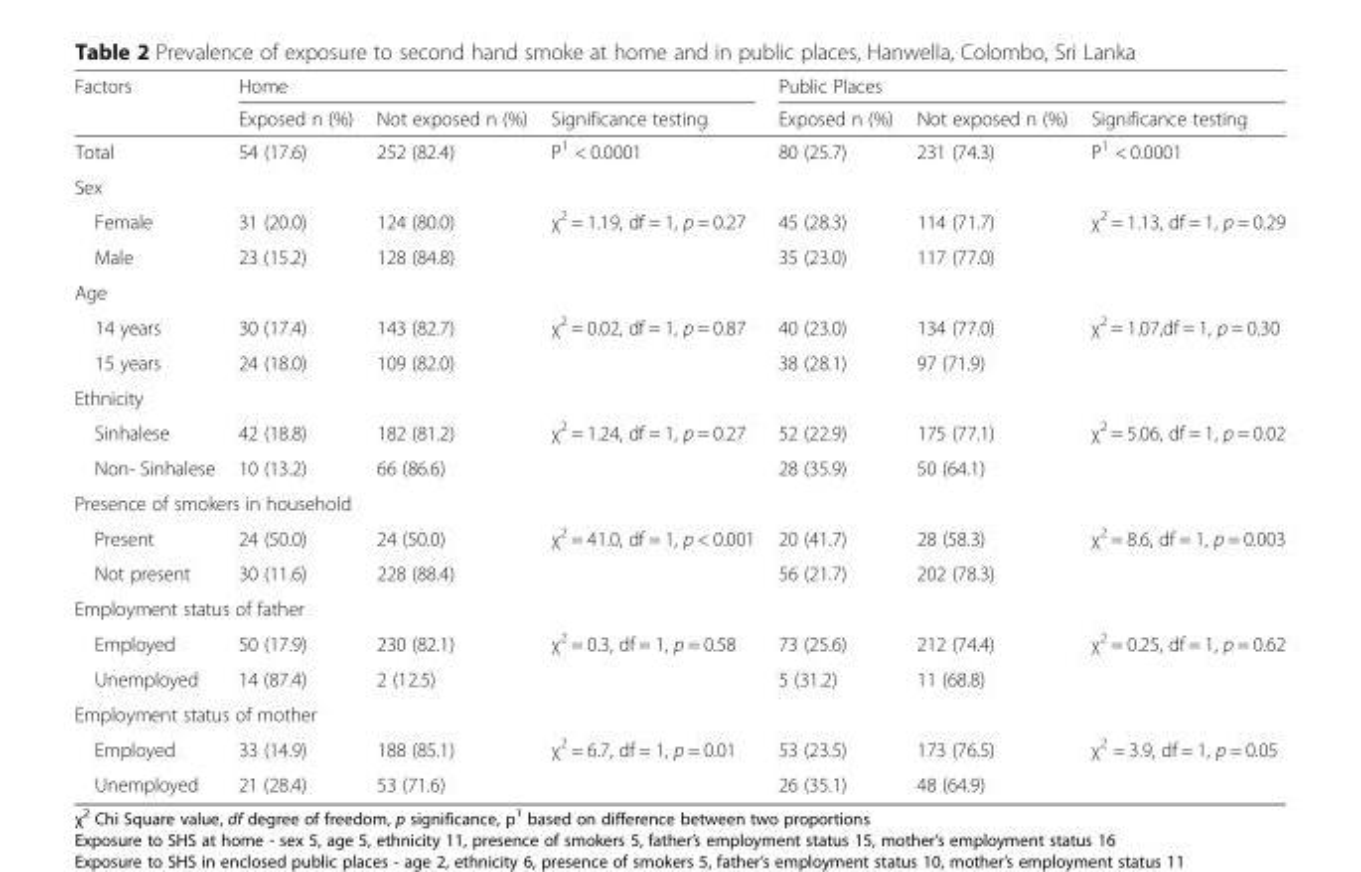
<table><thead><tr><td rowspan="2">Factors</td><td colspan="3">Home</td><td colspan="3">Public Places</td></tr><tr><td>Exposed n (%)</td><td>Not exposed n (%)</td><td>Significance testing</td><td>Exposed n (%)</td><td>Not exposed n (%)</td><td>Significance testing</td></tr></thead><tbody><tr><td>Total</td><td>54 (17.6)</td><td>252 (82.4)</td><td>P<sup>1</sup> &lt; 0.0001</td><td>80 (25.7)</td><td>231 (74.3)</td><td>P<sup>1</sup> &lt; 0.0001</td></tr><tr><td colspan="7">Sex</td></tr><tr><td>Female</td><td>31 (20.0)</td><td>124 (80.0)</td><td rowspan="2">χ<sup>2</sup> = 1.19, df = 1, p = 0.27</td><td>45 (28.3)</td><td>114 (71.7)</td><td rowspan="2">χ<sup>2</sup> = 1.13, df = 1, p = 0.29</td></tr><tr><td>Male</td><td>23 (15.2)</td><td>128 (84.8)</td><td>35 (23.0)</td><td>117 (77.0)</td></tr><tr><td colspan="7">Age</td></tr><tr><td>14 years</td><td>30 (17.4)</td><td>143 (82.7)</td><td rowspan="2">χ<sup>2</sup> = 0.02, df = 1, p = 0.87</td><td>40 (23.0)</td><td>134 (77.0)</td><td rowspan="2">χ<sup>2</sup> = 1.07,df = 1, p = 0.30</td></tr><tr><td>15 years</td><td>24 (18.0)</td><td>109 (82.0)</td><td>38 (28.1)</td><td>97 (71.9)</td></tr><tr><td colspan="7">Ethnicity</td></tr><tr><td>Sinhalese</td><td>42 (18.8)</td><td>182 (81.2)</td><td rowspan="2">χ<sup>2</sup> = 1.24, df = 1, p = 0.27</td><td>52 (22.9)</td><td>175 (77.1)</td><td rowspan="2">χ<sup>2</sup> = 5.06, df = 1, p = 0.02</td></tr><tr><td>Non- Sinhalese</td><td>10 (13.2)</td><td>66 (86.6)</td><td>28 (35.9)</td><td>50 (64.1)</td></tr><tr><td colspan="7">Presence of smokers in household</td></tr><tr><td>Present</td><td>24 (50.0)</td><td>24 (50.0)</td><td rowspan="2">χ<sup>2</sup> = 41.0, df = 1, p &lt; 0.001</td><td>20 (41.7)</td><td>28 (58.3)</td><td rowspan="2">χ<sup>2</sup> = 8.6, df = 1, p = 0.003</td></tr><tr><td>Not present</td><td>30 (11.6)</td><td>228 (88.4)</td><td>56 (21.7)</td><td>202 (78.3)</td></tr><tr><td colspan="7">Employment status of father</td></tr><tr><td>Employed</td><td>50 (17.9)</td><td>230 (82.1)</td><td rowspan="2">χ<sup>2</sup> = 0.3, df = 1, p = 0.58</td><td>73 (25.6)</td><td>212 (74.4)</td><td rowspan="2">χ<sup>2</sup> = 0.25, df = 1, p = 0.62</td></tr><tr><td>Unemployed</td><td>14 (87.4)</td><td>2 (12.5)</td><td>5 (31.2)</td><td>11 (68.8)</td></tr><tr><td colspan="7">Employment status of mother</td></tr><tr><td>Employed</td><td>33 (14.9)</td><td>188 (85.1)</td><td rowspan="2">χ<sup>2</sup> = 6.7, df = 1, p = 0.01</td><td>53 (23.5)</td><td>173 (76.5)</td><td rowspan="2">χ<sup>2</sup> = 3.9, df = 1, p = 0.05</td></tr><tr><td>Unemployed</td><td>21 (28.4)</td><td>53 (71.6)</td><td>26 (35.1)</td><td>48 (64.9)</td></tr></tbody></table>